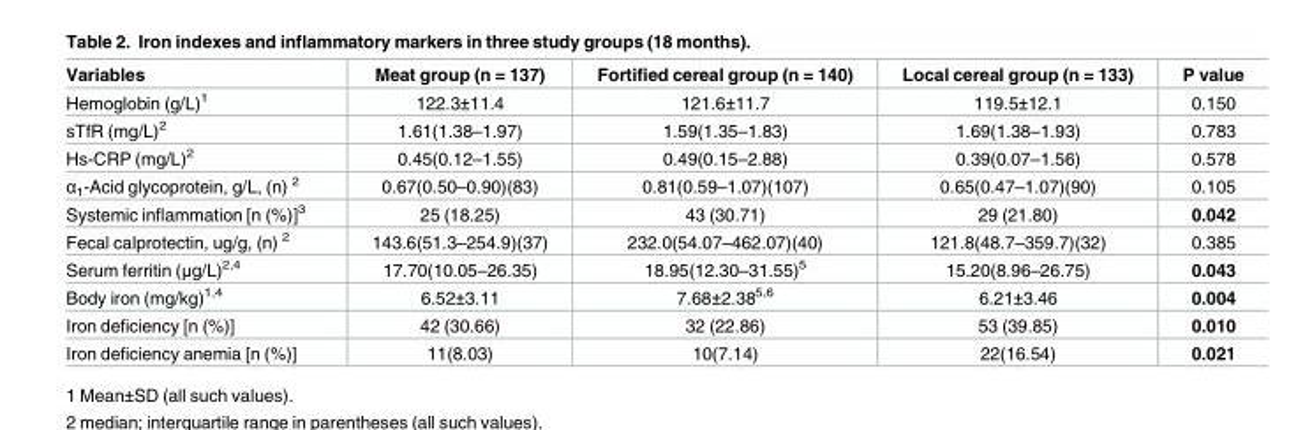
<table><thead><tr><td>Variables</td><td>Meat group (n = 137)</td><td>Fortified cereal group (n = 140)</td><td>Local cereal group (n = 133)</td><td>P value</td></tr></thead><tbody><tr><td>Hemoglobin (g/L)<sup>1</sup></td><td>122.3±11.4</td><td>121.6±11.7</td><td>119.5±12.1</td><td>0.150</td></tr><tr><td>sTfR (mg/L)<sup>2</sup></td><td>1.61(1.38–1.97)</td><td>1.59(1.35–1.83)</td><td>1.69(1.38–1.93)</td><td>0.783</td></tr><tr><td>Hs-CRP (mg/L)<sup>2</sup></td><td>0.45(0.12–1.55)</td><td>0.49(0.15–2.88)</td><td>0.39(0.07–1.56)</td><td>0.578</td></tr><tr><td>α<sub>1</sub>-Acid glycoprotein, g/L, (n) <sup>2</sup></td><td>0.67(0.50–0.90)(83)</td><td>0.81(0.59–1.07)(107)</td><td>0.65(0.47–1.07)(90)</td><td>0.105</td></tr><tr><td>Systemic inflammation [n (%)]<sup>3</sup></td><td>25 (18.25)</td><td>43 (30.71)</td><td>29 (21.80)</td><td>0.042</td></tr><tr><td>Fecal calprotectin, ug/g, (n) <sup>2</sup></td><td>143.6(51.3–254.9)(37)</td><td>232.0(54.07–462.07)(40)</td><td>121.8(48.7–359.7)(32)</td><td>0.385</td></tr><tr><td>Serum ferritin (μg/L)<sup>2,4</sup></td><td>17.70(10.05–26.35)</td><td>18.95(12.30–31.55)<sup>5</sup></td><td>15.20(8.96–26.75)</td><td>0.043</td></tr><tr><td>Body iron (mg/kg)<sup>1,4</sup></td><td>6.52±3.11</td><td>7.68±2.38<sup>5,6</sup></td><td>6.21±3.46</td><td>0.004</td></tr><tr><td>Iron deficiency [n (%)]</td><td>42 (30.66)</td><td>32 (22.86)</td><td>53 (39.85)</td><td>0.010</td></tr><tr><td>Iron deficiency anemia [n (%)]</td><td>11(8.03)</td><td>10(7.14)</td><td>22(16.54)</td><td>0.021</td></tr></tbody></table>